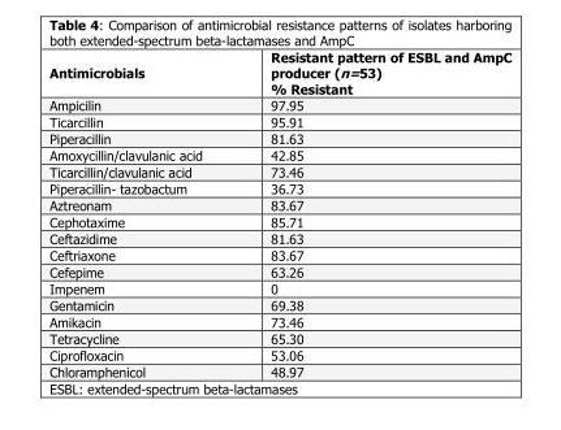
<table><thead><tr><td>Antimicrobials</td><td>Resistant pattern of ESBL and AmpC producer (n=53) % Resistant</td></tr></thead><tbody><tr><td>Ampicilin</td><td>97.95</td></tr><tr><td>Ticarcillin</td><td>95.91</td></tr><tr><td>Piperacillin</td><td>81.63</td></tr><tr><td>Amoxycillin/clavulanic acid</td><td>42.85</td></tr><tr><td>Ticarcillin/clavulanic acid</td><td>73.46</td></tr><tr><td>Piperacillin- tazobactum</td><td>36.73</td></tr><tr><td>Aztreonam</td><td>83.67</td></tr><tr><td>Cephotaxime</td><td>85.71</td></tr><tr><td>Ceftazidime</td><td>81.63</td></tr><tr><td>Ceftriaxone</td><td>83.67</td></tr><tr><td>Cefepime</td><td>63.26</td></tr><tr><td>Impenem</td><td>0</td></tr><tr><td>Gentamicin</td><td>69.38</td></tr><tr><td>Amikacin</td><td>73.46</td></tr><tr><td>Tetracycline</td><td>65.30</td></tr><tr><td>Ciprofloxacin</td><td>53.06</td></tr><tr><td>Chloramphenicol</td><td>48.97</td></tr></tbody></table>